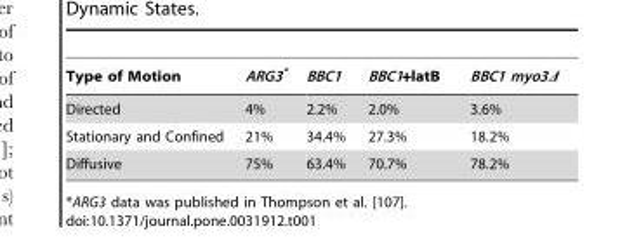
<table><thead><tr><td>Type of Motion</td><td>ARG3*</td><td>BBC1</td><td>BBC1+latB</td><td>BBC1 myo3Δ</td></tr></thead><tbody><tr><td>Directed</td><td>4%</td><td>2.2%</td><td>2.0%</td><td>3.6%</td></tr><tr><td>Stationary and Confined</td><td>21%</td><td>34.4%</td><td>27.3%</td><td>18.2%</td></tr><tr><td>Diffusive</td><td>75%</td><td>63.4%</td><td>70.7%</td><td>78.2%</td></tr></tbody></table>